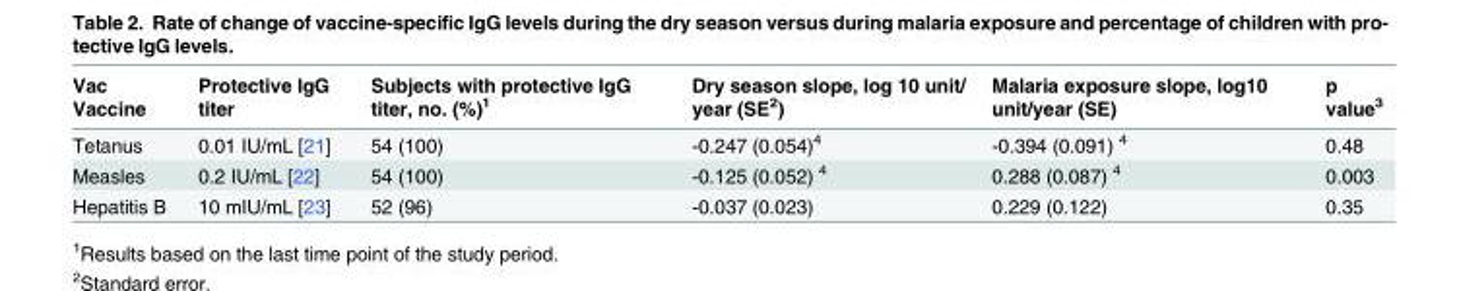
<table><thead><tr><td>Vac Vaccine</td><td>Protective IgG titer</td><td>Subjects with protective IgG titer, no. (%)<sup>1</sup></td><td>Dry season slope, log 10 unit/ year (SE<sup>2</sup>)</td><td>Malaria exposure slope, log10 unit/year (SE)</td><td>p value<sup>3</sup></td></tr></thead><tbody><tr><td>Tetanus</td><td>0.01 IU/mL [21]</td><td>54 (100)</td><td>-0.247 (0.054)<sup>4</sup></td><td>-0.394 (0.091) <sup>4</sup></td><td>0.48</td></tr><tr><td>Measles</td><td>0.2 IU/mL [22]</td><td>54 (100)</td><td>-0.125 (0.052) <sup>4</sup></td><td>0.288 (0.087) <sup>4</sup></td><td>0.003</td></tr><tr><td>Hepatitis B</td><td>10 mIU/mL [23]</td><td>52 (96)</td><td>-0.037 (0.023)</td><td>0.229 (0.122)</td><td>0.35</td></tr></tbody></table>